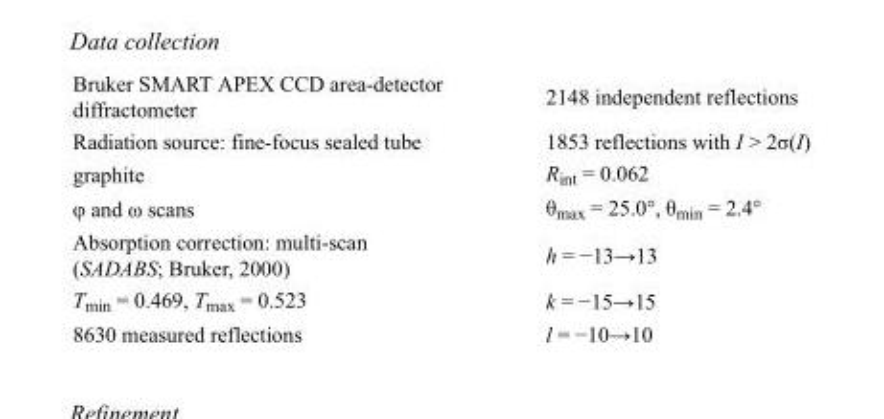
<table><tbody><tr><td>Bruker SMART APEX CCD area-detector diffractometer</td><td>2148 independent reflections</td></tr><tr><td>Radiation source: fine-focus sealed tube</td><td>1853 reflections with I &gt; 2σ(I)</td></tr><tr><td>graphite</td><td>R<sub>int</sub> = 0.062</td></tr><tr><td>φ and ω scans</td><td>θ<sub>max</sub> = 25.0°, θ<sub>min</sub> = 2.4°</td></tr><tr><td>Absorption correction: multi-scan (SADABS; Bruker, 2000)</td><td>h = −13→13</td></tr><tr><td>T<sub>min</sub> = 0.469, T<sub>max</sub> = 0.523</td><td>k = −15→15</td></tr><tr><td>8630 measured reflections</td><td>l = −10→10</td></tr></tbody></table>